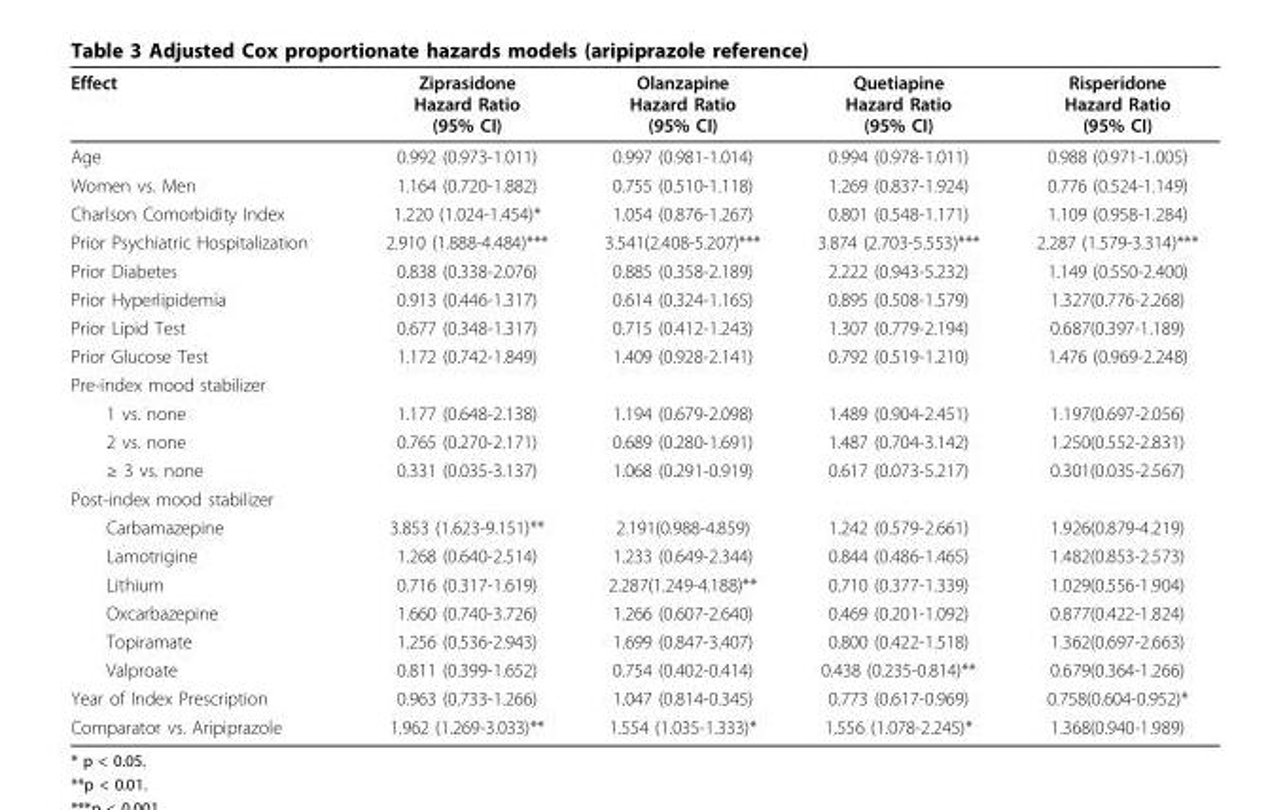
<table><thead><tr><td>Effect</td><td>Ziprasidone Hazard Ratio (95% CI)</td><td>Olanzapine Hazard Ratio (95% CI)</td><td>Quetiapine Hazard Ratio (95% CI)</td><td>Risperidone Hazard Ratio (95% CI)</td></tr></thead><tbody><tr><td>Age</td><td>0.992 (0.973-1.011)</td><td>0.997 (0.981-1.014)</td><td>0.994 (0.978-1.011)</td><td>0.988 (0.971-1.005)</td></tr><tr><td>Women vs. Men</td><td>1.164 (0.720-1.882)</td><td>0.755 (0.510-1.118)</td><td>1.269 (0.837-1.924)</td><td>0.776 (0.524-1.149)</td></tr><tr><td>Charlson Comorbidity Index</td><td>1.220 (1.024-1.454)*</td><td>1.054 (0.876-1.267)</td><td>0.801 (0.548-1.171)</td><td>1.109 (0.958-1.284)</td></tr><tr><td>Prior Psychiatric Hospitalization</td><td>2.910 (1.888-4.484)***</td><td>3.541(2.408-5.207)***</td><td>3.874 (2.703-5.553)***</td><td>2.287 (1.579-3.314)***</td></tr><tr><td>Prior Diabetes</td><td>0.838 (0.338-2.076)</td><td>0.885 (0.358-2.189)</td><td>2.222 (0.943-5.232)</td><td>1.149 (0.550-2.400)</td></tr><tr><td>Prior Hyperlipidemia</td><td>0.913 (0.446-1.317)</td><td>0.614 (0.324-1.165)</td><td>0.895 (0.508-1.579)</td><td>1.327(0.776-2.268)</td></tr><tr><td>Prior Lipid Test</td><td>0.677 (0.348-1.317)</td><td>0.715 (0.412-1.243)</td><td>1.307 (0.779-2.194)</td><td>0.687(0.397-1.189)</td></tr><tr><td>Prior Glucose Test</td><td>1.172 (0.742-1.849)</td><td>1.409 (0.928-2.141)</td><td>0.792 (0.519-1.210)</td><td>1.476 (0.969-2.248)</td></tr><tr><td colspan="5">Pre-index mood stabilizer</td></tr><tr><td>1 vs. none</td><td>1.177 (0.648-2.138)</td><td>1.194 (0.679-2.098)</td><td>1.489 (0.904-2.451)</td><td>1.197(0.697-2.056)</td></tr><tr><td>2 vs. none</td><td>0.765 (0.270-2.171)</td><td>0.689 (0.280-1.691)</td><td>1.487 (0.704-3.142)</td><td>1.250(0.552-2.831)</td></tr><tr><td>≥ 3 vs. none</td><td>0.331 (0.035-3.137)</td><td>1.068 (0.291-0.919)</td><td>0.617 (0.073-5.217)</td><td>0.301(0.035-2.567)</td></tr><tr><td colspan="5">Post-index mood stabilizer</td></tr><tr><td>Carbamazepine</td><td>3.853 (1.623-9.151)**</td><td>2.191(0.988-4.859)</td><td>1.242 (0.579-2.661)</td><td>1.926(0.879-4.219)</td></tr><tr><td>Lamotrigine</td><td>1.268 (0.640-2.514)</td><td>1.233 (0.649-2.344)</td><td>0.844 (0.486-1.465)</td><td>1.482(0.853-2.573)</td></tr><tr><td>Lithium</td><td>0.716 (0.317-1.619)</td><td>2.287(1.249-4.188)**</td><td>0.710 (0.377-1.339)</td><td>1.029(0.556-1.904)</td></tr><tr><td>Oxcarbazepine</td><td>1.660 (0.740-3.726)</td><td>1.266 (0.607-2.640)</td><td>0.469 (0.201-1.092)</td><td>0.877(0.422-1.824)</td></tr><tr><td>Topiramate</td><td>1.256 (0.536-2.943)</td><td>1.699 (0.847-3.407)</td><td>0.800 (0.422-1.518)</td><td>1.362(0.697-2.663)</td></tr><tr><td>Valproate</td><td>0.811 (0.399-1.652)</td><td>0.754 (0.402-0.414)</td><td>0.438 (0.235-0.814)**</td><td>0.679(0.364-1.266)</td></tr><tr><td>Year of Index Prescription</td><td>0.963 (0.733-1.266)</td><td>1.047 (0.814-0.345)</td><td>0.773 (0.617-0.969)</td><td>0.758(0.604-0.952)*</td></tr><tr><td>Comparator vs. Aripiprazole</td><td>1.962 (1.269-3.033)**</td><td>1.554 (1.035-1.333)*</td><td>1.556 (1.078-2.245)*</td><td>1.368(0.940-1.989)</td></tr></tbody></table>